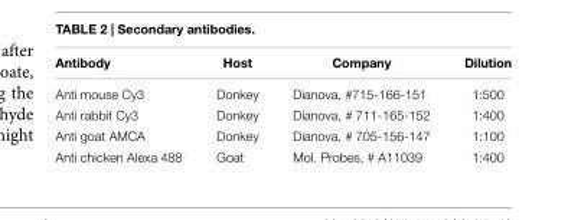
<table><thead><tr><td>Antibody</td><td>Host</td><td>Company</td><td>Dilution</td></tr></thead><tbody><tr><td>Anti mouse Cy3</td><td>Donkey</td><td>Dianova, #715-166-151</td><td>1:500</td></tr><tr><td>Anti rabbit Cy3</td><td>Donkey</td><td>Dianova, # 711-165-152</td><td>1:400</td></tr><tr><td>Anti goat AMCA</td><td>Donkey</td><td>Dianova, # 705-156-147</td><td>1:100</td></tr><tr><td>Anti chicken Alexa 488</td><td>Goat</td><td>Mol. Probes, # A11039</td><td>1:400</td></tr></tbody></table>